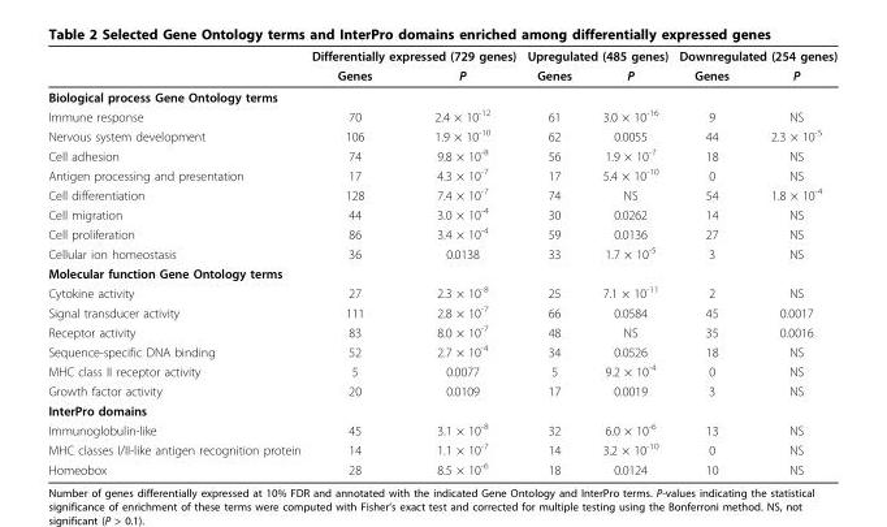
<table><thead><tr><td rowspan="2"></td><td colspan="2">Differentially expressed (729 genes)</td><td colspan="2">Upregulated (485 genes)</td><td colspan="2">Downregulated (254 genes)</td></tr><tr><td>Genes</td><td>P</td><td>Genes</td><td>P</td><td>Genes</td><td>P</td></tr></thead><tbody><tr><td colspan="7">Biological process Gene Ontology terms</td></tr><tr><td>Immune response</td><td>70</td><td>2.4 × 10<sup>-12</sup></td><td>61</td><td>3.0 × 10<sup>-16</sup></td><td>9</td><td>NS</td></tr><tr><td>Nervous system development</td><td>106</td><td>1.9 × 10<sup>-10</sup></td><td>62</td><td>0.0055</td><td>44</td><td>2.3 × 10<sup>-5</sup></td></tr><tr><td>Cell adhesion</td><td>74</td><td>9.8 × 10<sup>-8</sup></td><td>56</td><td>1.9 × 10<sup>-7</sup></td><td>18</td><td>NS</td></tr><tr><td>Antigen processing and presentation</td><td>17</td><td>4.3 × 10<sup>-7</sup></td><td>17</td><td>5.4 × 10<sup>-10</sup></td><td>0</td><td>NS</td></tr><tr><td>Cell differentiation</td><td>128</td><td>7.4 × 10<sup>-7</sup></td><td>74</td><td>NS</td><td>54</td><td>1.8 × 10<sup>-4</sup></td></tr><tr><td>Cell migration</td><td>44</td><td>3.0 × 10<sup>-4</sup></td><td>30</td><td>0.0262</td><td>14</td><td>NS</td></tr><tr><td>Cell proliferation</td><td>86</td><td>3.4 × 10<sup>-4</sup></td><td>59</td><td>0.0136</td><td>27</td><td>NS</td></tr><tr><td>Cellular ion homeostasis</td><td>36</td><td>0.0138</td><td>33</td><td>1.7 × 10<sup>-5</sup></td><td>3</td><td>NS</td></tr><tr><td colspan="7">Molecular function Gene Ontology terms</td></tr><tr><td>Cytokine activity</td><td>27</td><td>2.3 × 10<sup>-8</sup></td><td>25</td><td>7.1 × 10<sup>-11</sup></td><td>2</td><td>NS</td></tr><tr><td>Signal transducer activity</td><td>111</td><td>2.8 × 10<sup>-7</sup></td><td>66</td><td>0.0584</td><td>45</td><td>0.0017</td></tr><tr><td>Receptor activity</td><td>83</td><td>8.0 × 10<sup>-7</sup></td><td>48</td><td>NS</td><td>35</td><td>0.0016</td></tr><tr><td>Sequence-specific DNA binding</td><td>52</td><td>2.7 × 10<sup>-4</sup></td><td>34</td><td>0.0526</td><td>18</td><td>NS</td></tr><tr><td>MHC class II receptor activity</td><td>5</td><td>0.0077</td><td>5</td><td>9.2 × 10<sup>-4</sup></td><td>0</td><td>NS</td></tr><tr><td>Growth factor activity</td><td>20</td><td>0.0109</td><td>17</td><td>0.0019</td><td>3</td><td>NS</td></tr><tr><td colspan="7">InterPro domains</td></tr><tr><td>Immunoglobulin-like</td><td>45</td><td>3.1 × 10<sup>-8</sup></td><td>32</td><td>6.0 × 10<sup>-6</sup></td><td>13</td><td>NS</td></tr><tr><td>MHC classes I/II-like antigen recognition protein</td><td>14</td><td>1.1 × 10<sup>-7</sup></td><td>14</td><td>3.2 × 10<sup>-10</sup></td><td>0</td><td>NS</td></tr><tr><td>Homeobox</td><td>28</td><td>8.5 × 10<sup>-6</sup></td><td>18</td><td>0.0124</td><td>10</td><td>NS</td></tr></tbody></table>